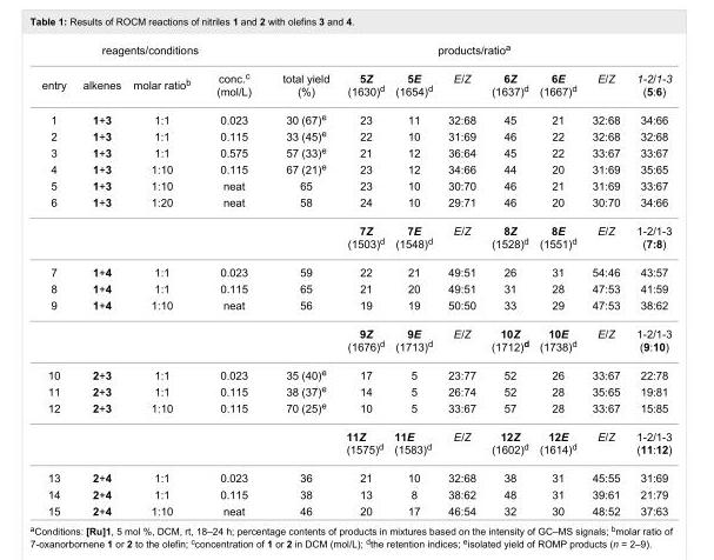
<table><tbody><tr><td colspan="4">reagents/conditions</td><td colspan="8">products/ratio<sup>a</sup></td></tr><tr><td>entry</td><td>alkenes</td><td>molar ratio<sup>b</sup></td><td>conc.<sup>c</sup> (mol/L)</td><td>total yield (%)</td><td>5Z (1630)<sup>d</sup></td><td>5E (1654)<sup>d</sup></td><td>E/Z</td><td>6Z (1637)<sup>d</sup></td><td>6E (1667)<sup>d</sup></td><td>E/Z</td><td>1-2/1-3 (5:6)</td></tr><tr><td>1</td><td>1+3</td><td>1:1</td><td>0.023</td><td>30 (67)<sup>e</sup></td><td>23</td><td>11</td><td>32:68</td><td>45</td><td>21</td><td>32:68</td><td>34:66</td></tr><tr><td>2</td><td>1+3</td><td>1:1</td><td>0.115</td><td>33 (45)<sup>e</sup></td><td>22</td><td>10</td><td>31:69</td><td>46</td><td>22</td><td>32:68</td><td>32:68</td></tr><tr><td>3</td><td>1+3</td><td>1:1</td><td>0.575</td><td>57 (33)<sup>e</sup></td><td>21</td><td>12</td><td>36:64</td><td>45</td><td>22</td><td>33:67</td><td>33:67</td></tr><tr><td>4</td><td>1+3</td><td>1:10</td><td>0.115</td><td>67 (21)<sup>e</sup></td><td>23</td><td>12</td><td>34:66</td><td>44</td><td>20</td><td>31:69</td><td>35:65</td></tr><tr><td>5</td><td>1+3</td><td>1:10</td><td>neat</td><td>65</td><td>23</td><td>10</td><td>30:70</td><td>46</td><td>21</td><td>31:69</td><td>33:67</td></tr><tr><td>6</td><td>1+3</td><td>1:20</td><td>neat</td><td>58</td><td>24</td><td>10</td><td>29:71</td><td>46</td><td>20</td><td>30:70</td><td>34:66</td></tr><tr><td colspan="5"></td><td>7Z (1503)<sup>d</sup></td><td>7E (1548)<sup>d</sup></td><td>E/Z</td><td>8Z (1528)<sup>d</sup></td><td>8E (1551)<sup>d</sup></td><td>E/Z</td><td>1-2/1-3 (7:8)</td></tr><tr><td>7</td><td>1+4</td><td>1:1</td><td>0.023</td><td>59</td><td>22</td><td>21</td><td>49:51</td><td>26</td><td>31</td><td>54:46</td><td>43:57</td></tr><tr><td>8</td><td>1+4</td><td>1:1</td><td>0.115</td><td>65</td><td>21</td><td>20</td><td>49:51</td><td>31</td><td>28</td><td>47:53</td><td>41:59</td></tr><tr><td>9</td><td>1+4</td><td>1:10</td><td>neat</td><td>56</td><td>19</td><td>19</td><td>50:50</td><td>33</td><td>29</td><td>47:53</td><td>38:62</td></tr><tr><td colspan="5"></td><td>9Z (1676)<sup>d</sup></td><td>9E (1713)<sup>d</sup></td><td>E/Z</td><td>10Z (1712)<sup>d</sup></td><td>10E (1738)<sup>d</sup></td><td>E/Z</td><td>1-2/1-3 (9:10)</td></tr><tr><td>10</td><td>2+3</td><td>1:1</td><td>0.023</td><td>35 (40)<sup>e</sup></td><td>17</td><td>5</td><td>23:77</td><td>52</td><td>26</td><td>33:67</td><td>22:78</td></tr><tr><td>11</td><td>2+3</td><td>1:1</td><td>0.115</td><td>38 (37)<sup>e</sup></td><td>14</td><td>5</td><td>26:74</td><td>52</td><td>28</td><td>35:65</td><td>19:81</td></tr><tr><td>12</td><td>2+3</td><td>1:10</td><td>0.115</td><td>70 (25)<sup>e</sup></td><td>10</td><td>5</td><td>33:67</td><td>57</td><td>28</td><td>33:67</td><td>15:85</td></tr><tr><td colspan="5"></td><td>11Z (1575)<sup>d</sup></td><td>11E (1583)<sup>d</sup></td><td>E/Z</td><td>12Z (1602)<sup>d</sup></td><td>12E (1614)<sup>d</sup></td><td>E/Z</td><td>1-2/1-3 (11:12)</td></tr><tr><td>13</td><td>2+4</td><td>1:1</td><td>0.023</td><td>36</td><td>21</td><td>10</td><td>32:68</td><td>38</td><td>31</td><td>45:55</td><td>31:69</td></tr><tr><td>14</td><td>2+4</td><td>1:1</td><td>0.115</td><td>38</td><td>13</td><td>8</td><td>38:62</td><td>48</td><td>31</td><td>39:61</td><td>21:79</td></tr><tr><td>15</td><td>2+4</td><td>1:10</td><td>neat</td><td>46</td><td>20</td><td>17</td><td>46:54</td><td>32</td><td>30</td><td>48:52</td><td>37:63</td></tr></tbody></table>